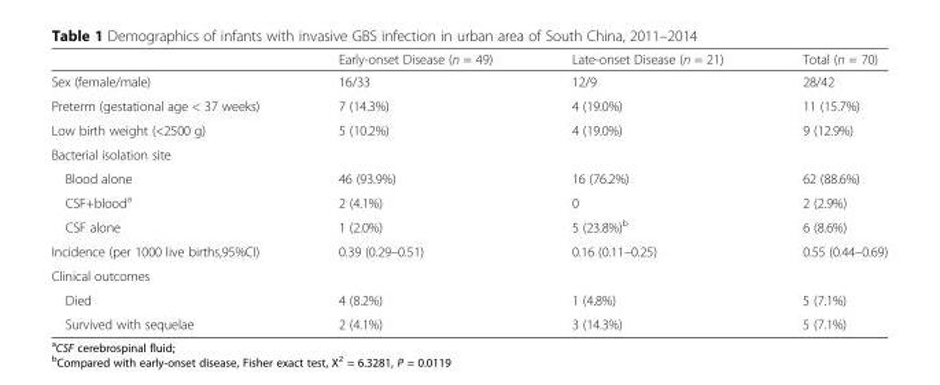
<table><thead><tr><td></td><td>Early-onset Disease (n = 49)</td><td>Late-onset Disease (n = 21)</td><td>Total (n = 70)</td></tr></thead><tbody><tr><td>Sex (female/male)</td><td>16/33</td><td>12/9</td><td>28/42</td></tr><tr><td>Preterm (gestational age &lt; 37 weeks)</td><td>7 (14.3%)</td><td>4 (19.0%)</td><td>11 (15.7%)</td></tr><tr><td>Low birth weight (&lt;2500 g)</td><td>5 (10.2%)</td><td>4 (19.0%)</td><td>9 (12.9%)</td></tr><tr><td colspan="4">Bacterial isolation site</td></tr><tr><td>Blood alone</td><td>46 (93.9%)</td><td>16 (76.2%)</td><td>62 (88.6%)</td></tr><tr><td>CSF+blood<sup>a</sup></td><td>2 (4.1%)</td><td>0</td><td>2 (2.9%)</td></tr><tr><td>CSF alone</td><td>1 (2.0%)</td><td>5 (23.8%)<sup>b</sup></td><td>6 (8.6%)</td></tr><tr><td>Incidence (per 1000 live births,95%CI)</td><td>0.39 (0.29–0.51)</td><td>0.16 (0.11–0.25)</td><td>0.55 (0.44–0.69)</td></tr><tr><td colspan="4">Clinical outcomes</td></tr><tr><td>Died</td><td>4 (8.2%)</td><td>1 (4.8%)</td><td>5 (7.1%)</td></tr><tr><td>Survived with sequelae</td><td>2 (4.1%)</td><td>3 (14.3%)</td><td>5 (7.1%)</td></tr></tbody></table>